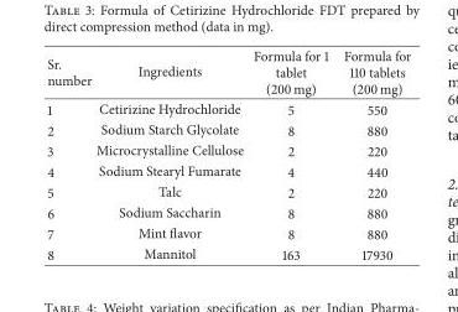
<table><thead><tr><td>Sr. number</td><td>Ingredients</td><td>Formula for 1 tablet (200 mg)</td><td>Formula for 110 tablets (200 mg)</td></tr></thead><tbody><tr><td>1</td><td>Cetirizine Hydrochloride</td><td>5</td><td>550</td></tr><tr><td>2</td><td>Sodium Starch Glycolate</td><td>8</td><td>880</td></tr><tr><td>3</td><td>Microcrystalline Cellulose</td><td>2</td><td>220</td></tr><tr><td>4</td><td>Sodium Stearyl Fumarate</td><td>4</td><td>440</td></tr><tr><td>5</td><td>Talc</td><td>2</td><td>220</td></tr><tr><td>6</td><td>Sodium Saccharin</td><td>8</td><td>880</td></tr><tr><td>7</td><td>Mint flavor</td><td>8</td><td>880</td></tr><tr><td>8</td><td>Mannitol</td><td>163</td><td>17930</td></tr></tbody></table>